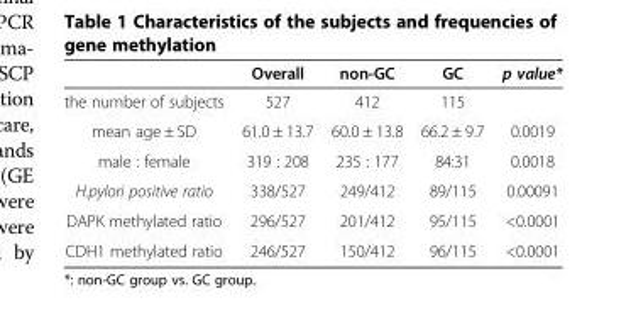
<table><thead><tr><td></td><td>Overall</td><td>non-GC</td><td>GC</td><td>p value*</td></tr></thead><tbody><tr><td>the number of subjects</td><td>527</td><td>412</td><td>115</td><td></td></tr><tr><td>mean age ± SD</td><td>61.0 ± 13.7</td><td>60.0 ± 13.8</td><td>66.2 ± 9.7</td><td>0.0019</td></tr><tr><td>male : female</td><td>319 : 208</td><td>235 : 177</td><td>84:31</td><td>0.0018</td></tr><tr><td>H.pylori positive ratio</td><td>338/527</td><td>249/412</td><td>89/115</td><td>0.00091</td></tr><tr><td>DAPK methylated ratio</td><td>296/527</td><td>201/412</td><td>95/115</td><td>&lt;0.0001</td></tr><tr><td>CDH1 methylated ratio</td><td>246/527</td><td>150/412</td><td>96/115</td><td>&lt;0.0001</td></tr></tbody></table>